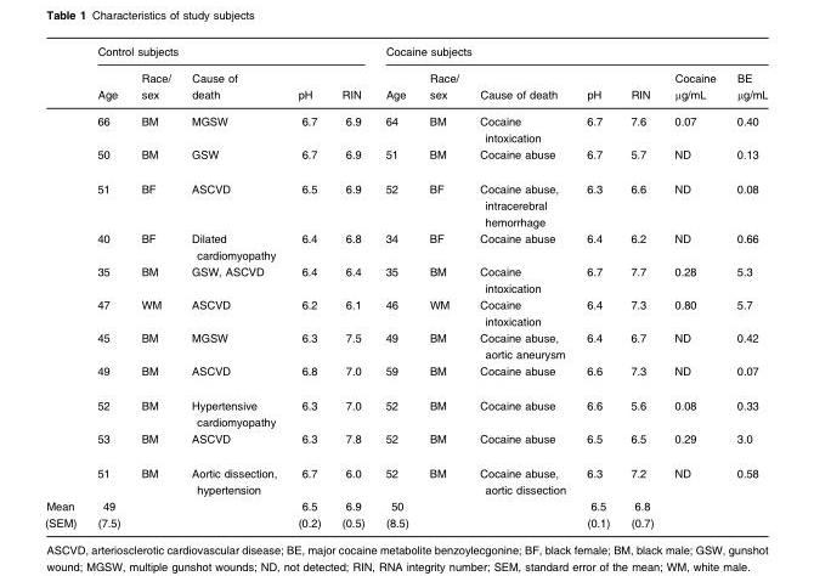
<table><thead><tr><td rowspan="2"></td><td colspan="5">Control subjects</td><td colspan="7">Cocaine subjects</td></tr><tr><td>Age</td><td>Race/ sex</td><td>Cause of death</td><td>pH</td><td>RIN</td><td>Age</td><td>Race/ sex</td><td>Cause of death</td><td>pH</td><td>RIN</td><td>Cocaine μg/mL</td><td>BE μg/mL</td></tr></thead><tbody><tr><td rowspan="11"></td><td>66</td><td>BM</td><td>MGSW</td><td>6.7</td><td>6.9</td><td>64</td><td>BM</td><td>Cocaine intoxication</td><td>6.7</td><td>7.6</td><td>0.07</td><td>0.40</td></tr><tr><td>50</td><td>BM</td><td>GSW</td><td>6.7</td><td>6.9</td><td>51</td><td>BM</td><td>Cocaine abuse</td><td>6.7</td><td>5.7</td><td>ND</td><td>0.13</td></tr><tr><td>51</td><td>BF</td><td>ASCVD</td><td>6.5</td><td>6.9</td><td>52</td><td>BF</td><td>Cocaine abuse, intracerebral hemorrhage</td><td>6.3</td><td>6.6</td><td>ND</td><td>0.08</td></tr><tr><td>40</td><td>BF</td><td>Dilated cardiomyopathy</td><td>6.4</td><td>6.8</td><td>34</td><td>BF</td><td>Cocaine abuse</td><td>6.4</td><td>6.2</td><td>ND</td><td>0.66</td></tr><tr><td>35</td><td>BM</td><td>GSW, ASCVD</td><td>6.4</td><td>6.4</td><td>35</td><td>BM</td><td>Cocaine intoxication</td><td>6.7</td><td>7.7</td><td>0.28</td><td>5.3</td></tr><tr><td>47</td><td>WM</td><td>ASCVD</td><td>6.2</td><td>6.1</td><td>46</td><td>WM</td><td>Cocaine intoxication</td><td>6.4</td><td>7.3</td><td>0.80</td><td>5.7</td></tr><tr><td>45</td><td>BM</td><td>MGSW</td><td>6.3</td><td>7.5</td><td>49</td><td>BM</td><td>Cocaine abuse, aortic aneurysm</td><td>6.4</td><td>6.7</td><td>ND</td><td>0.42</td></tr><tr><td>49</td><td>BM</td><td>ASCVD</td><td>6.8</td><td>7.0</td><td>59</td><td>BM</td><td>Cocaine abuse</td><td>6.6</td><td>7.3</td><td>ND</td><td>0.07</td></tr><tr><td>52</td><td>BM</td><td>Hypertensive cardiomyopathy</td><td>6.3</td><td>7.0</td><td>52</td><td>BM</td><td>Cocaine abuse</td><td>6.6</td><td>5.6</td><td>0.08</td><td>0.33</td></tr><tr><td>53</td><td>BM</td><td>ASCVD</td><td>6.3</td><td>7.8</td><td>52</td><td>BM</td><td>Cocaine abuse</td><td>6.5</td><td>6.5</td><td>0.29</td><td>3.0</td></tr><tr><td>51</td><td>BM</td><td>Aortic dissection, hypertension</td><td>6.7</td><td>6.0</td><td>52</td><td>BM</td><td>Cocaine abuse, aortic dissection</td><td>6.3</td><td>7.2</td><td>ND</td><td>0.58</td></tr><tr><td>Mean (SEM)</td><td>49 (7.5)</td><td></td><td></td><td>6.5 (0.2)</td><td>6.9 (0.5)</td><td>50 (8.5)</td><td></td><td></td><td>6.5 (0.1)</td><td>6.8 (0.7)</td><td></td><td></td></tr></tbody></table>